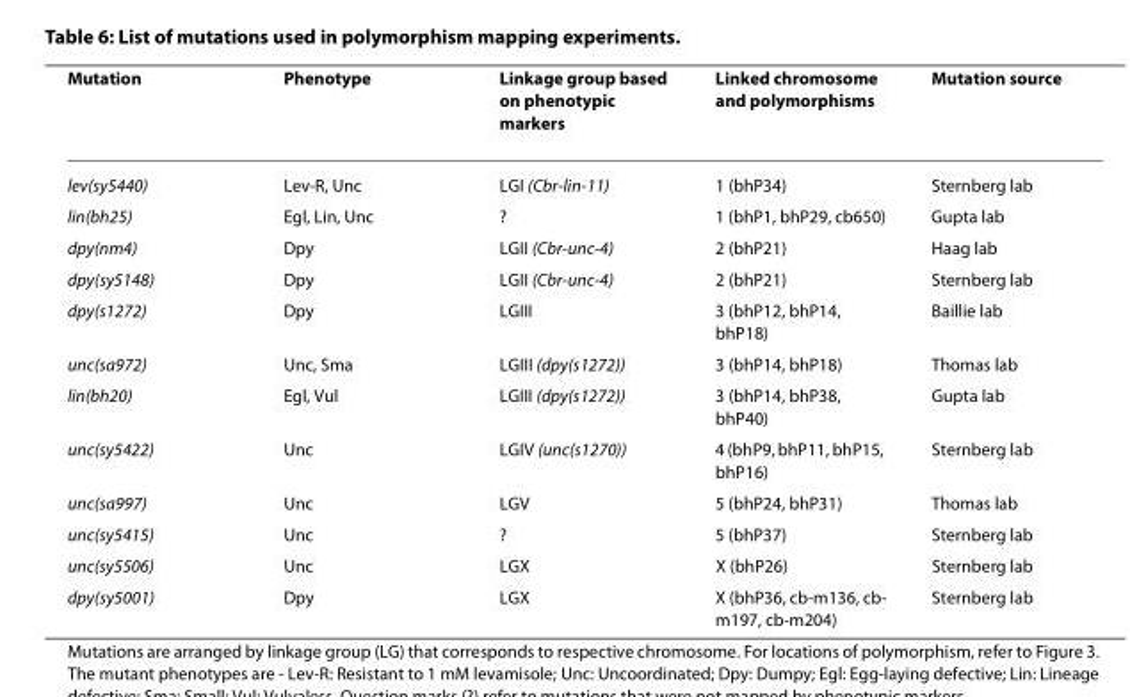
<table><thead><tr><td>Mutation</td><td>Phenotype</td><td>Linkage group based on phenotypic markers</td><td>Linked chromosome and polymorphisms</td><td>Mutation source</td></tr></thead><tbody><tr><td>lev(sy5440)</td><td>Lev-R, Unc</td><td>LGI (Cbr-lin-11)</td><td>1 (bhP34)</td><td>Sternberg lab</td></tr><tr><td>lin(bh25)</td><td>Egl, Lin, Unc</td><td>?</td><td>1 (bhP1, bhP29, cb650)</td><td>Gupta lab</td></tr><tr><td>dpy(nm4)</td><td>Dpy</td><td>LGII (Cbr-unc-4)</td><td>2 (bhP21)</td><td>Haag lab</td></tr><tr><td>dpy(sy5148)</td><td>Dpy</td><td>LGII (Cbr-unc-4)</td><td>2 (bhP21)</td><td>Sternberg lab</td></tr><tr><td>dpy(s1272)</td><td>Dpy</td><td>LGIII</td><td>3 (bhP12, bhP14, bhP18)</td><td>Baillie lab</td></tr><tr><td>unc(sa972)</td><td>Unc, Sma</td><td>LGIII (dpy(s1272))</td><td>3 (bhP14, bhP18)</td><td>Thomas lab</td></tr><tr><td>lin(bh20)</td><td>Egl, Vul</td><td>LGIII (dpy(s1272))</td><td>3 (bhP14, bhP38, bhP40)</td><td>Gupta lab</td></tr><tr><td>unc(sy5422)</td><td>Unc</td><td>LGIV (unc(s1270))</td><td>4 (bhP9, bhP11, bhP15, bhP16)</td><td>Sternberg lab</td></tr><tr><td>unc(sa997)</td><td>Unc</td><td>LGV</td><td>5 (bhP24, bhP31)</td><td>Thomas lab</td></tr><tr><td>unc(sy5415)</td><td>Unc</td><td>?</td><td>5 (bhP37)</td><td>Sternberg lab</td></tr><tr><td>unc(sy5506)</td><td>Unc</td><td>LGX</td><td>X (bhP26)</td><td>Sternberg lab</td></tr><tr><td>dpy(sy5001)</td><td>Dpy</td><td>LGX</td><td>X (bhP36, cb-m136, cb- m197, cb-m204)</td><td>Sternberg lab</td></tr></tbody></table>